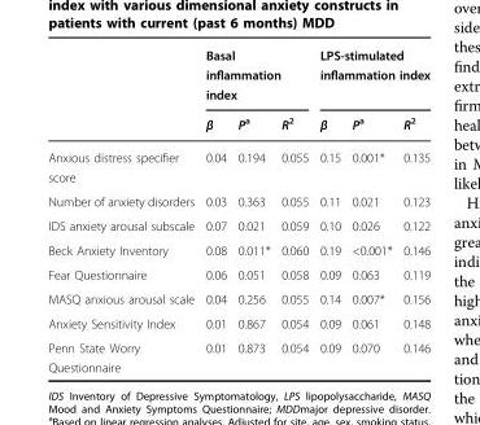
<table><thead><tr><td rowspan="2"></td><td colspan="3">Basal inflammation index</td><td colspan="3">LPS-stimulated inflammation index</td></tr><tr><td>β</td><td>P<sup>a</sup></td><td>R<sup>2</sup></td><td>β</td><td>P<sup>a</sup></td><td>R<sup>2</sup></td></tr></thead><tbody><tr><td>Anxious distress specifier score</td><td>0.04</td><td>0.194</td><td>0.055</td><td>0.15</td><td>0.001*</td><td>0.135</td></tr><tr><td>Number of anxiety disorders</td><td>0.03</td><td>0.363</td><td>0.055</td><td>0.11</td><td>0.021</td><td>0.123</td></tr><tr><td>IDS anxiety arousal subscale</td><td>0.07</td><td>0.021</td><td>0.059</td><td>0.10</td><td>0.026</td><td>0.122</td></tr><tr><td>Beck Anxiety Inventory</td><td>0.08</td><td>0.011*</td><td>0.060</td><td>0.19</td><td>&lt;0.001*</td><td>0.146</td></tr><tr><td>Fear Questionnaire</td><td>0.06</td><td>0.051</td><td>0.058</td><td>0.09</td><td>0.063</td><td>0.119</td></tr><tr><td>MASQ anxious arousal scale</td><td>0.04</td><td>0.256</td><td>0.055</td><td>0.14</td><td>0.007*</td><td>0.156</td></tr><tr><td>Anxiety Sensitivity Index</td><td>0.01</td><td>0.867</td><td>0.054</td><td>0.09</td><td>0.061</td><td>0.148</td></tr><tr><td>Penn State Worry Questionnaire</td><td>0.01</td><td>0.873</td><td>0.054</td><td>0.09</td><td>0.070</td><td>0.146</td></tr></tbody></table>